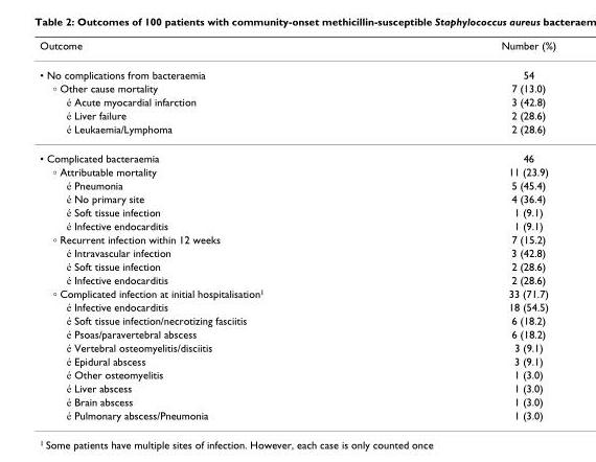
<table><thead><tr><td>Outcome</td><td>Number (%)</td></tr></thead><tbody><tr><td>• No complications from bacteraemia</td><td>54</td></tr><tr><td>◦ Other cause mortality</td><td>7 (13.0)</td></tr><tr><td>é Acute myocardial infarction</td><td>3 (42.8)</td></tr><tr><td>é Liver failure</td><td>2 (28.6)</td></tr><tr><td>é Leukaemia/Lymphoma</td><td>2 (28.6)</td></tr><tr><td>• Complicated bacteraemia</td><td>46</td></tr><tr><td>◦ Attributable mortality</td><td>11 (23.9)</td></tr><tr><td>é Pneumonia</td><td>5 (45.4)</td></tr><tr><td>é No primary site</td><td>4 (36.4)</td></tr><tr><td>é Soft tissue infection</td><td>1 (9.1)</td></tr><tr><td>é Infective endocarditis</td><td>1 (9.1)</td></tr><tr><td>◦ Recurrent infection within 12 weeks</td><td>7 (15.2)</td></tr><tr><td>é Intravascular infection</td><td>3 (42.8)</td></tr><tr><td>é Soft tissue infection</td><td>2 (28.6)</td></tr><tr><td>é Infective endocarditis</td><td>2 (28.6)</td></tr><tr><td>◦ Complicated infection at initial hospitalisation1</td><td>33 (71.7)</td></tr><tr><td>é Infective endocarditis</td><td>18 (54.5)</td></tr><tr><td>é Soft tissue infection/necrotizing fasciitis</td><td>6 (18.2)</td></tr><tr><td>é Psoas/paravertebral abscess</td><td>6 (18.2)</td></tr><tr><td>é Vertebral osteomyelitis/disciitis</td><td>3 (9.1)</td></tr><tr><td>é Epidural abscess</td><td>3 (9.1)</td></tr><tr><td>é Other osteomyelitis</td><td>1 (3.0)</td></tr><tr><td>é Liver abscess</td><td>1 (3.0)</td></tr><tr><td>é Brain abscess</td><td>1 (3.0)</td></tr><tr><td>é Pulmonary abscess/Pneumonia</td><td>1 (3.0)</td></tr></tbody></table>